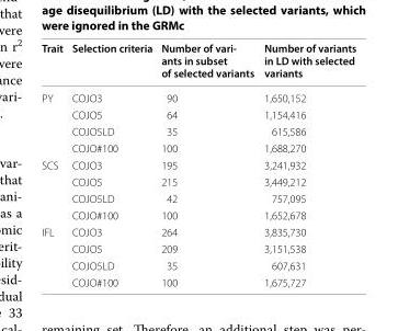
<table><thead><tr><td>Trait</td><td>Selection criteria</td><td>Number of vari- ants in subset of selected variants</td><td>Number of variants in LD with selected variants</td></tr></thead><tbody><tr><td rowspan="4">PY</td><td>COJO3</td><td>90</td><td>1,650,152</td></tr><tr><td>COJO5</td><td>64</td><td>1,154,416</td></tr><tr><td>COJO5LD</td><td>35</td><td>615,586</td></tr><tr><td>COJO#100</td><td>100</td><td>1,688,270</td></tr><tr><td rowspan="4">SCS</td><td>COJO3</td><td>195</td><td>3,241,932</td></tr><tr><td>COJO5</td><td>215</td><td>3,449,212</td></tr><tr><td>COJO5LD</td><td>42</td><td>757,095</td></tr><tr><td>COJO#100</td><td>100</td><td>1,652,678</td></tr><tr><td rowspan="4">IFL</td><td>COJO3</td><td>264</td><td>3,835,730</td></tr><tr><td>COJO5</td><td>209</td><td>3,151,538</td></tr><tr><td>COJO5LD</td><td>35</td><td>607,631</td></tr><tr><td>COJO#100</td><td>100</td><td>1,675,727</td></tr></tbody></table>